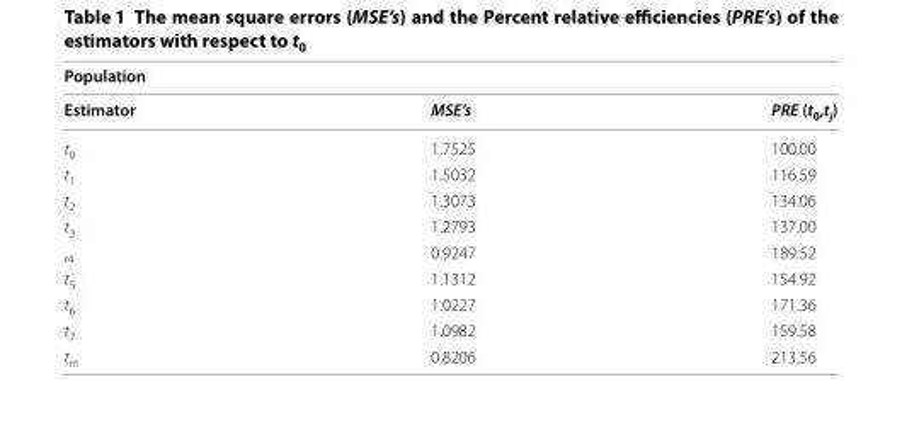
<table><thead><tr><td colspan="3">Population</td></tr><tr><td>Estimator</td><td>MSE’s</td><td>PRE (t<sub>0</sub>,t<sub>j</sub>)</td></tr></thead><tbody><tr><td>t<sub>0</sub></td><td>1.7525</td><td>100.00</td></tr><tr><td>t<sub>1</sub></td><td>1.5032</td><td>116.59</td></tr><tr><td>t<sub>2</sub></td><td>1.3073</td><td>134.06</td></tr><tr><td>t<sub>3</sub></td><td>1.2793</td><td>137.00</td></tr><tr><td><sub>t4</sub></td><td>0.9247</td><td>189.52</td></tr><tr><td>t<sub>5</sub></td><td>1.1312</td><td>154.92</td></tr><tr><td>t<sub>6</sub></td><td>1.0227</td><td>171.36</td></tr><tr><td>t<sub>7</sub></td><td>1.0982</td><td>159.58</td></tr><tr><td>t<sub>m</sub></td><td>0.8206</td><td>213.56</td></tr></tbody></table>